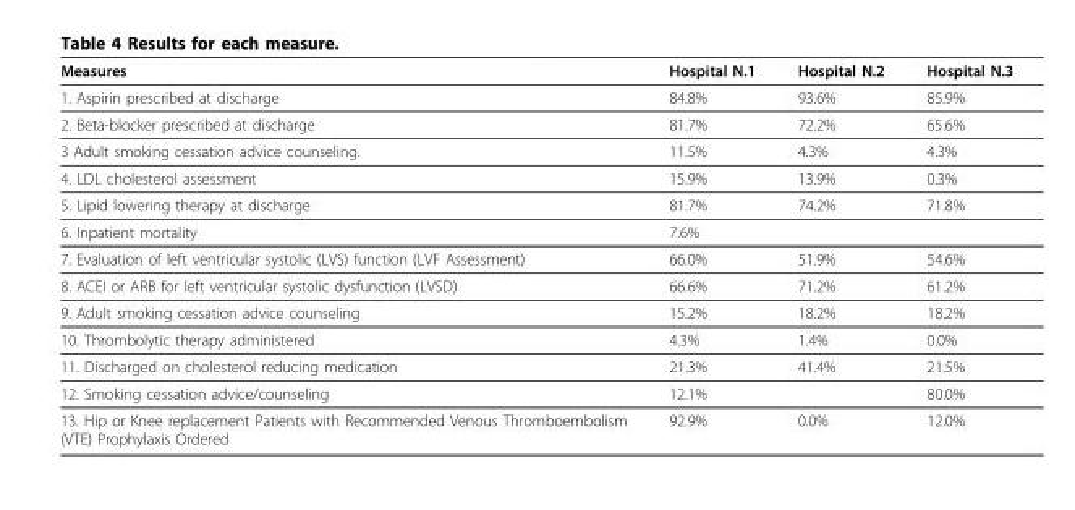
<table><thead><tr><td>Measures</td><td>Hospital N.1</td><td>Hospital N.2</td><td>Hospital N.3</td></tr></thead><tbody><tr><td>1. Aspirin prescribed at discharge</td><td>84.8%</td><td>93.6%</td><td>85.9%</td></tr><tr><td>2. Beta-blocker prescribed at discharge</td><td>81.7%</td><td>72.2%</td><td>65.6%</td></tr><tr><td>3 Adult smoking cessation advice counseling.</td><td>11.5%</td><td>4.3%</td><td>4.3%</td></tr><tr><td>4. LDL cholesterol assessment</td><td>15.9%</td><td>13.9%</td><td>0.3%</td></tr><tr><td>5. Lipid lowering therapy at discharge</td><td>81.7%</td><td>74.2%</td><td>71.8%</td></tr><tr><td>6. Inpatient mortality</td><td>7.6%</td><td></td><td></td></tr><tr><td>7. Evaluation of left ventricular systolic (LVS) function (LVF Assessment)</td><td>66.0%</td><td>51.9%</td><td>54.6%</td></tr><tr><td>8. ACEI or ARB for left ventricular systolic dysfunction (LVSD)</td><td>66.6%</td><td>71.2%</td><td>61.2%</td></tr><tr><td>9. Adult smoking cessation advice counseling</td><td>15.2%</td><td>18.2%</td><td>18.2%</td></tr><tr><td>10. Thrombolytic therapy administered</td><td>4.3%</td><td>1.4%</td><td>0.0%</td></tr><tr><td>11. Discharged on cholesterol reducing medication</td><td>21.3%</td><td>41.4%</td><td>21.5%</td></tr><tr><td>12. Smoking cessation advice/counseling</td><td>12.1%</td><td></td><td>80.0%</td></tr><tr><td>13. Hip or Knee replacement Patients with Recommended Venous Thromboembolism (VTE) Prophylaxis Ordered</td><td>92.9%</td><td>0.0%</td><td>12.0%</td></tr></tbody></table>